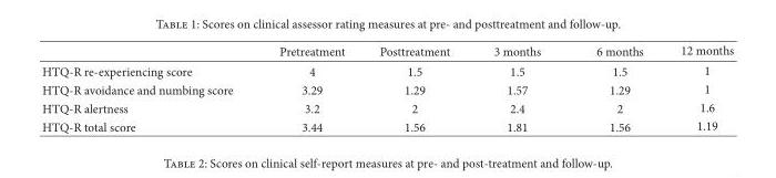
<table><thead><tr><td></td><td>Pretreatment</td><td>Posttreatment</td><td>3 months</td><td>6 months</td><td>12 months</td></tr></thead><tbody><tr><td>HTQ-R re-experiencing score</td><td>4</td><td>1.5</td><td>1.5</td><td>1.5</td><td>1</td></tr><tr><td>HTQ-R avoidance and numbing score</td><td>3.29</td><td>1.29</td><td>1.57</td><td>1.29</td><td>1</td></tr><tr><td>HTQ-R alertness</td><td>3.2</td><td>2</td><td>2.4</td><td>2</td><td>1.6</td></tr><tr><td>HTQ-R total score</td><td>3.44</td><td>1.56</td><td>1.81</td><td>1.56</td><td>1.19</td></tr></tbody></table>